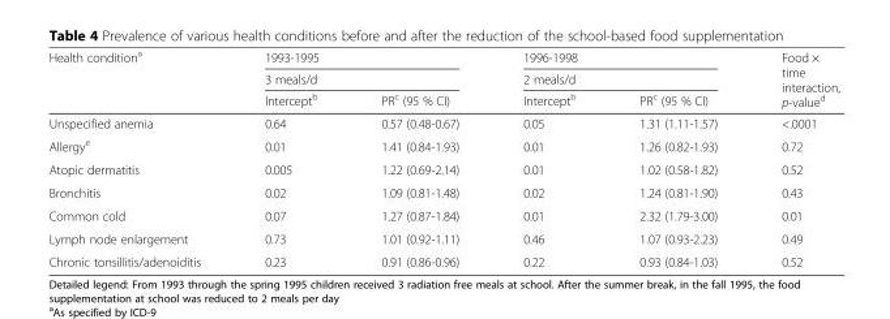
<table><thead><tr><td rowspan="3">Health condition<sup>a</sup></td><td rowspan="2" colspan="2">1993-1995 3 meals/d</td><td rowspan="2" colspan="2">1996-1998 2 meals/d</td><td rowspan="3">Food × time interaction, p-value<sup>d</sup></td></tr><tr></tr><tr><td>Intercept<sup>b</sup></td><td>PR<sup>c</sup> (95 % CI)</td><td>Intercept<sup>b</sup></td><td>PR<sup>c</sup> (95 % CI)</td></tr></thead><tbody><tr><td>Unspecified anemia</td><td>0.64</td><td>0.57 (0.48-0.67)</td><td>0.05</td><td>1.31 (1.11-1.57)</td><td>&lt;.0001</td></tr><tr><td>Allergy<sup>e</sup></td><td>0.01</td><td>1.41 (0.84-1.93)</td><td>0.01</td><td>1.26 (0.82-1.93)</td><td>0.72</td></tr><tr><td>Atopic dermatitis</td><td>0.005</td><td>1.22 (0.69-2.14)</td><td>0.01</td><td>1.02 (0.58-1.82)</td><td>0.52</td></tr><tr><td>Bronchitis</td><td>0.02</td><td>1.09 (0.81-1.48)</td><td>0.02</td><td>1.24 (0.81-1.90)</td><td>0.43</td></tr><tr><td>Common cold</td><td>0.07</td><td>1.27 (0.87-1.84)</td><td>0.01</td><td>2.32 (1.79-3.00)</td><td>0.01</td></tr><tr><td>Lymph node enlargement</td><td>0.73</td><td>1.01 (0.92-1.11)</td><td>0.46</td><td>1.07 (0.93-2.23)</td><td>0.49</td></tr><tr><td>Chronic tonsillitis/adenoiditis</td><td>0.23</td><td>0.91 (0.86-0.96)</td><td>0.22</td><td>0.93 (0.84-1.03)</td><td>0.52</td></tr></tbody></table>